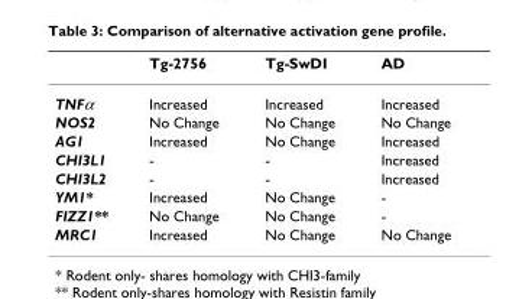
<table><thead><tr><td></td><td>Tg-2756</td><td>Tg-SwDI</td><td>AD</td></tr></thead><tbody><tr><td>TNFα</td><td>Increased</td><td>Increased</td><td>Increased</td></tr><tr><td>NOS2</td><td>No Change</td><td>No Change</td><td>No Change</td></tr><tr><td>AG1</td><td>Increased</td><td>No Change</td><td>Increased</td></tr><tr><td>CHI3L1</td><td>-</td><td>-</td><td>Increased</td></tr><tr><td>CHI3L2</td><td>-</td><td>-</td><td>Increased</td></tr><tr><td>YM1*</td><td>Increased</td><td>No Change</td><td>-</td></tr><tr><td>FIZZ1**</td><td>No Change</td><td>No Change</td><td>-</td></tr><tr><td>MRC1</td><td>Increased</td><td>No Change</td><td>No Change</td></tr></tbody></table>